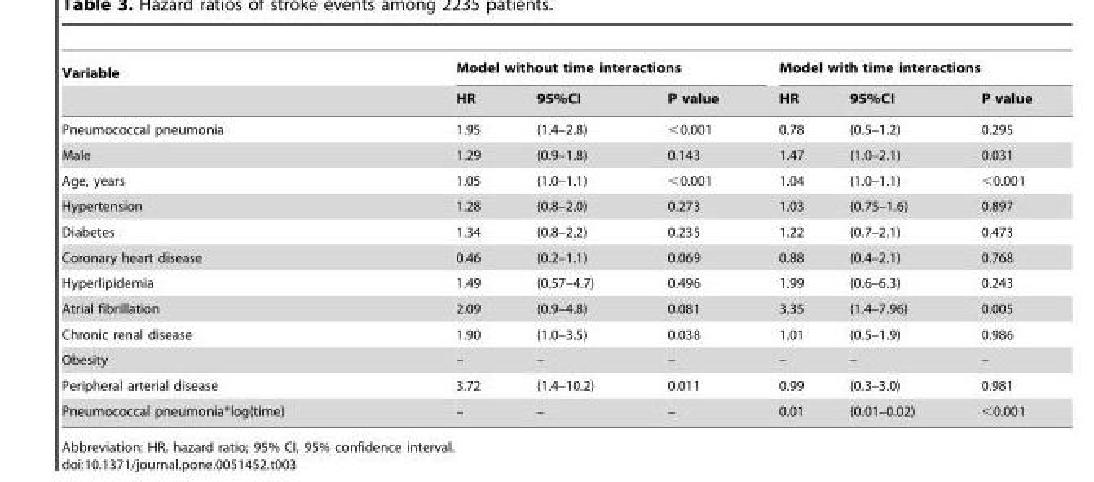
<table><thead><tr><td rowspan="2">Variable</td><td colspan="3">Model without time interactions</td><td colspan="3">Model with time interactions</td></tr><tr><td>HR</td><td>95%CI</td><td>P value</td><td>HR</td><td>95%CI</td><td>P value</td></tr></thead><tbody><tr><td>Pneumococcal pneumonia</td><td>1.95</td><td>(1.4–2.8)</td><td>&lt;0.001</td><td>0.78</td><td>(0.5–1.2)</td><td>0.295</td></tr><tr><td>Male</td><td>1.29</td><td>(0.9–1.8)</td><td>0.143</td><td>1.47</td><td>(1.0–2.1)</td><td>0.031</td></tr><tr><td>Age, years</td><td>1.05</td><td>(1.0–1.1)</td><td>&lt;0.001</td><td>1.04</td><td>(1.0–1.1)</td><td>&lt;0.001</td></tr><tr><td>Hypertension</td><td>1.28</td><td>(0.8–2.0)</td><td>0.273</td><td>1.03</td><td>(0.75–1.6)</td><td>0.897</td></tr><tr><td>Diabetes</td><td>1.34</td><td>(0.8–2.2)</td><td>0.235</td><td>1.22</td><td>(0.7–2.1)</td><td>0.473</td></tr><tr><td>Coronary heart disease</td><td>0.46</td><td>(0.2–1.1)</td><td>0.069</td><td>0.88</td><td>(0.4–2.1)</td><td>0.768</td></tr><tr><td>Hyperlipidemia</td><td>1.49</td><td>(0.57–4.7)</td><td>0.496</td><td>1.99</td><td>(0.6–6.3)</td><td>0.243</td></tr><tr><td>Atrial fibrillation</td><td>2.09</td><td>(0.9–4.8)</td><td>0.081</td><td>3.35</td><td>(1.4–7.96)</td><td>0.005</td></tr><tr><td>Chronic renal disease</td><td>1.90</td><td>(1.0–3.5)</td><td>0.038</td><td>1.01</td><td>(0.5–1.9)</td><td>0.986</td></tr><tr><td>Obesity</td><td>–</td><td>–</td><td>–</td><td>–</td><td>–</td><td>–</td></tr><tr><td>Peripheral arterial disease</td><td>3.72</td><td>(1.4–10.2)</td><td>0.011</td><td>0.99</td><td>(0.3–3.0)</td><td>0.981</td></tr><tr><td>Pneumococcal pneumonia*log(time)</td><td>–</td><td>–</td><td>–</td><td>0.01</td><td>(0.01–0.02)</td><td>&lt;0.001</td></tr></tbody></table>